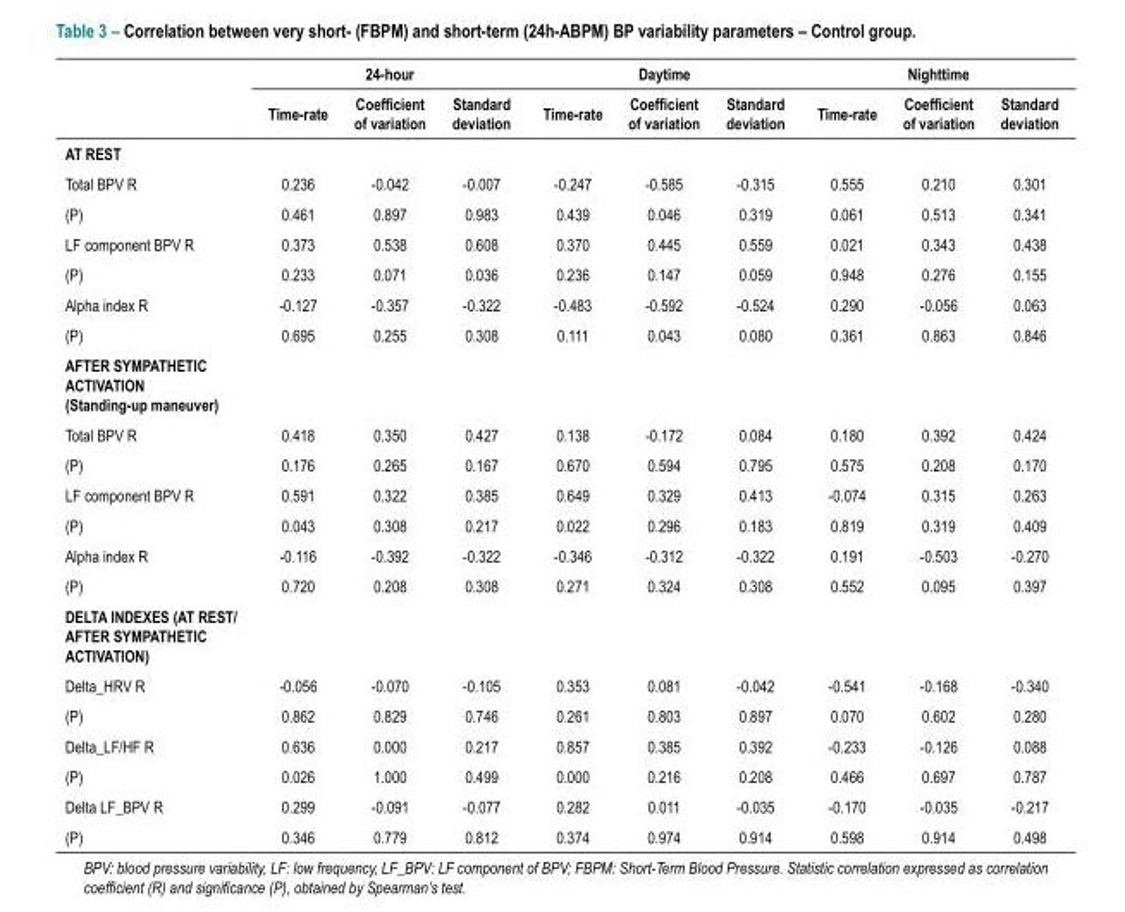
<table><thead><tr><td rowspan="2"></td><td colspan="3">24-hour</td><td colspan="3">Daytime</td><td colspan="3">Nighttime</td></tr><tr><td>Time-rate</td><td>Coefficient of variation</td><td>Standard deviation</td><td>Time-rate</td><td>Coefficient of variation</td><td>Standard deviation</td><td>Time-rate</td><td>Coefficient of variation</td><td>Standard deviation</td></tr></thead><tbody><tr><td colspan="10">AT REST</td></tr><tr><td>Total BPV R</td><td>0.236</td><td>-0.042</td><td>-0.007</td><td>-0.247</td><td>-0.585</td><td>-0.315</td><td>0.555</td><td>0.210</td><td>0.301</td></tr><tr><td>(P)</td><td>0.461</td><td>0.897</td><td>0.983</td><td>0.439</td><td>0.046</td><td>0.319</td><td>0.061</td><td>0.513</td><td>0.341</td></tr><tr><td>LF component BPV R</td><td>0.373</td><td>0.538</td><td>0.608</td><td>0.370</td><td>0.445</td><td>0.559</td><td>0.021</td><td>0.343</td><td>0.438</td></tr><tr><td>(P)</td><td>0.233</td><td>0.071</td><td>0.036</td><td>0.236</td><td>0.147</td><td>0.059</td><td>0.948</td><td>0.276</td><td>0.155</td></tr><tr><td>Alpha index R</td><td>-0.127</td><td>-0.357</td><td>-0.322</td><td>-0.483</td><td>-0.592</td><td>-0.524</td><td>0.290</td><td>-0.056</td><td>0.063</td></tr><tr><td>(P)</td><td>0.695</td><td>0.255</td><td>0.308</td><td>0.111</td><td>0.043</td><td>0.080</td><td>0.361</td><td>0.863</td><td>0.846</td></tr><tr><td colspan="10">AFTER SYMPATHETIC ACTIVATION (Standing-up maneuver)</td></tr><tr><td>Total BPV R</td><td>0.418</td><td>0.350</td><td>0.427</td><td>0.138</td><td>-0.172</td><td>0.084</td><td>0.180</td><td>0.392</td><td>0.424</td></tr><tr><td>(P)</td><td>0.176</td><td>0.265</td><td>0.167</td><td>0.670</td><td>0.594</td><td>0.795</td><td>0.575</td><td>0.208</td><td>0.170</td></tr><tr><td>LF component BPV R</td><td>0.591</td><td>0.322</td><td>0.385</td><td>0.649</td><td>0.329</td><td>0.413</td><td>-0.074</td><td>0.315</td><td>0.263</td></tr><tr><td>(P)</td><td>0.043</td><td>0.308</td><td>0.217</td><td>0.022</td><td>0.296</td><td>0.183</td><td>0.819</td><td>0.319</td><td>0.409</td></tr><tr><td>Alpha index R</td><td>-0.116</td><td>-0.392</td><td>-0.322</td><td>-0.346</td><td>-0.312</td><td>-0.322</td><td>0.191</td><td>-0.503</td><td>-0.270</td></tr><tr><td>(P)</td><td>0.720</td><td>0.208</td><td>0.308</td><td>0.271</td><td>0.324</td><td>0.308</td><td>0.552</td><td>0.095</td><td>0.397</td></tr><tr><td colspan="10">DELTA INDEXES (AT REST/ AFTER SYMPATHETIC ACTIVATION)</td></tr><tr><td>Delta_HRV R</td><td>-0.056</td><td>-0.070</td><td>-0.105</td><td>0.353</td><td>0.081</td><td>-0.042</td><td>-0.541</td><td>-0.168</td><td>-0.340</td></tr><tr><td>(P)</td><td>0.862</td><td>0.829</td><td>0.746</td><td>0.261</td><td>0.803</td><td>0.897</td><td>0.070</td><td>0.602</td><td>0.280</td></tr><tr><td>Delta_LF/HF R</td><td>0.636</td><td>0.000</td><td>0.217</td><td>0.857</td><td>0.385</td><td>0.392</td><td>-0.233</td><td>-0.126</td><td>0.088</td></tr><tr><td>(P)</td><td>0.026</td><td>1.000</td><td>0.499</td><td>0.000</td><td>0.216</td><td>0.208</td><td>0.466</td><td>0.697</td><td>0.787</td></tr><tr><td>Delta LF_BPV R</td><td>0.299</td><td>-0.091</td><td>-0.077</td><td>0.282</td><td>0.011</td><td>-0.035</td><td>-0.170</td><td>-0.035</td><td>-0.217</td></tr><tr><td>(P)</td><td>0.346</td><td>0.779</td><td>0.812</td><td>0.374</td><td>0.974</td><td>0.914</td><td>0.598</td><td>0.914</td><td>0.498</td></tr></tbody></table>